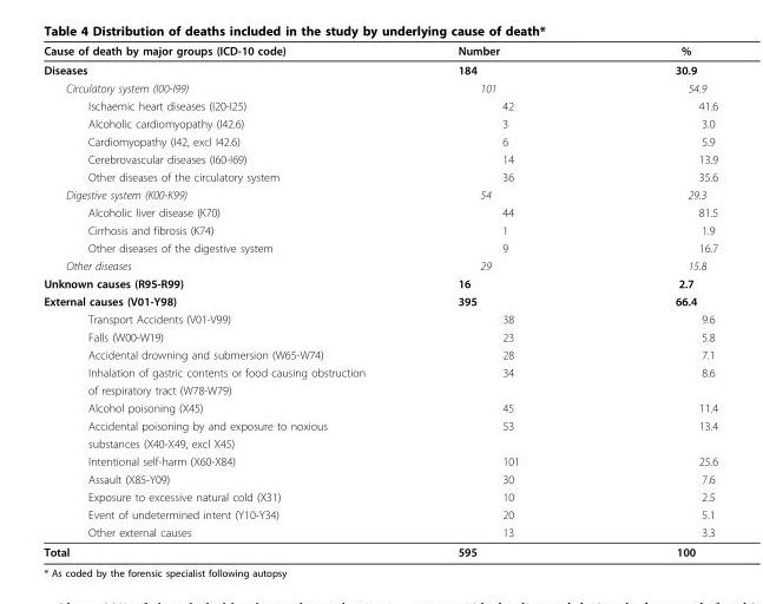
<table><thead><tr><td>Cause of death by major groups (ICD-10 code)</td><td>Number</td><td>%</td></tr></thead><tbody><tr><td>Diseases</td><td>184</td><td>30.9</td></tr><tr><td>Circulatory system (I00-I99)</td><td>101</td><td>54.9</td></tr><tr><td>Ischaemic heart diseases (I20-I25)</td><td>42</td><td>41.6</td></tr><tr><td>Alcoholic cardiomyopathy (I42.6)</td><td>3</td><td>3.0</td></tr><tr><td>Cardiomyopathy (I42, excl I42.6)</td><td>6</td><td>5.9</td></tr><tr><td>Cerebrovascular diseases (I60-I69)</td><td>14</td><td>13.9</td></tr><tr><td>Other diseases of the circulatory system</td><td>36</td><td>35.6</td></tr><tr><td>Digestive system (K00-K99)</td><td>54</td><td>29.3</td></tr><tr><td>Alcoholic liver disease (K70)</td><td>44</td><td>81.5</td></tr><tr><td>Cirrhosis and fibrosis (K74)</td><td>1</td><td>1.9</td></tr><tr><td>Other diseases of the digestive system</td><td>9</td><td>16.7</td></tr><tr><td>Other diseases</td><td>29</td><td>15.8</td></tr><tr><td>Unknown causes (R95-R99)</td><td>16</td><td>2.7</td></tr><tr><td>External causes (V01-Y98)</td><td>395</td><td>66.4</td></tr><tr><td>Transport Accidents (V01-V99)</td><td>38</td><td>9.6</td></tr><tr><td>Falls (W00-W19)</td><td>23</td><td>5.8</td></tr><tr><td>Accidental drowning and submersion (W65-W74)</td><td>28</td><td>7.1</td></tr><tr><td>Inhalation of gastric contents or food causing obstruction</td><td>34</td><td>8.6</td></tr><tr><td colspan="3">of respiratory tract (W78-W79)</td></tr><tr><td>Alcohol poisoning (X45)</td><td>45</td><td>11.4</td></tr><tr><td>Accidental poisoning by and exposure to noxious</td><td>53</td><td>13.4</td></tr><tr><td colspan="3">substances (X40-X49, excl X45)</td></tr><tr><td>Intentional self-harm (X60-X84)</td><td>101</td><td>25.6</td></tr><tr><td>Assault (X85-Y09)</td><td>30</td><td>7.6</td></tr><tr><td>Exposure to excessive natural cold (X31)</td><td>10</td><td>2.5</td></tr><tr><td>Event of undetermined intent (Y10-Y34)</td><td>20</td><td>5.1</td></tr><tr><td>Other external causes</td><td>13</td><td>3.3</td></tr><tr><td>Total</td><td>595</td><td>100</td></tr></tbody></table>